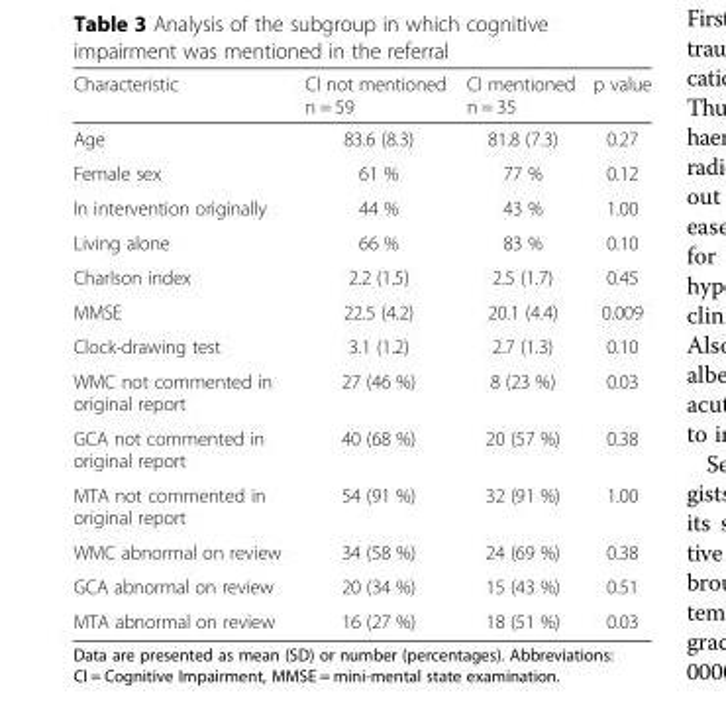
<table><thead><tr><td>Characteristic</td><td>CI not mentioned n = 59</td><td>CI mentioned n = 35</td><td>p value</td></tr></thead><tbody><tr><td>Age</td><td>83.6 (8.3)</td><td>81.8 (7.3)</td><td>0.27</td></tr><tr><td>Female sex</td><td>61 %</td><td>77 %</td><td>0.12</td></tr><tr><td>In intervention originally</td><td>44 %</td><td>43 %</td><td>1.00</td></tr><tr><td>Living alone</td><td>66 %</td><td>83 %</td><td>0.10</td></tr><tr><td>Charlson index</td><td>2.2 (1.5)</td><td>2.5 (1.7)</td><td>0.45</td></tr><tr><td>MMSE</td><td>22.5 (4.2)</td><td>20.1 (4.4)</td><td>0.009</td></tr><tr><td>Clock-drawing test</td><td>3.1 (1.2)</td><td>2.7 (1.3)</td><td>0.10</td></tr><tr><td>WMC not commented in original report</td><td>27 (46 %)</td><td>8 (23 %)</td><td>0.03</td></tr><tr><td>GCA not commented in original report</td><td>40 (68 %)</td><td>20 (57 %)</td><td>0.38</td></tr><tr><td>MTA not commented in original report</td><td>54 (91 %)</td><td>32 (91 %)</td><td>1.00</td></tr><tr><td>WMC abnormal on review</td><td>34 (58 %)</td><td>24 (69 %)</td><td>0.38</td></tr><tr><td>GCA abnormal on review</td><td>20 (34 %)</td><td>15 (43 %)</td><td>0.51</td></tr><tr><td>MTA abnormal on review</td><td>16 (27 %)</td><td>18 (51 %)</td><td>0.03</td></tr></tbody></table>